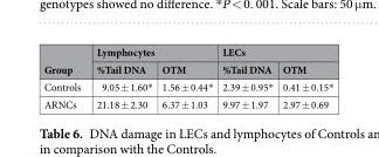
<table><thead><tr><td rowspan="2">Group</td><td colspan="2">Lymphocytes</td><td colspan="2">LECs</td></tr><tr><td>%Tail DNA</td><td>OTM</td><td>%Tail DNA</td><td>OTM</td></tr></thead><tbody><tr><td>Controls</td><td>9.05 ± 1.60*</td><td>1.56 ± 0.44*</td><td>2.39 ± 0.95*</td><td>0.41 ± 0.15*</td></tr><tr><td>ARNCs</td><td>21.18 ± 2.30</td><td>6.37 ± 1.03</td><td>9.97 ± 1.97</td><td>2.97 ± 0.69</td></tr></tbody></table>